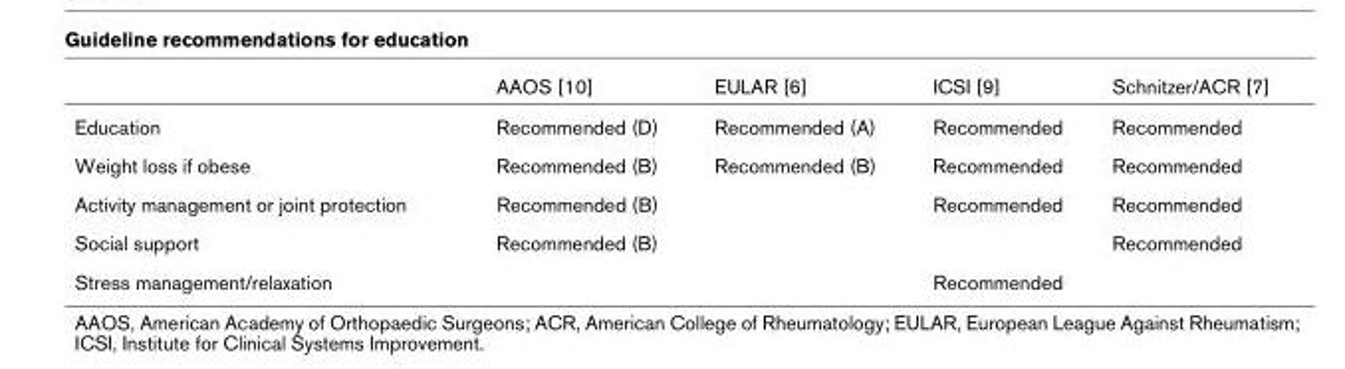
<table><thead><tr><td></td><td>AAOS [10]</td><td>EULAR [6]</td><td>ICSI [9]</td><td>Schnitzer/ACR [7]</td></tr></thead><tbody><tr><td>Education</td><td>Recommended (D)</td><td>Recommended (A)</td><td>Recommended</td><td>Recommended</td></tr><tr><td>Weight loss if obese</td><td>Recommended (B)</td><td>Recommended (B)</td><td>Recommended</td><td>Recommended</td></tr><tr><td>Activity management or joint protection</td><td>Recommended (B)</td><td></td><td>Recommended</td><td>Recommended</td></tr><tr><td>Social support</td><td>Recommended (B)</td><td></td><td></td><td>Recommended</td></tr><tr><td>Stress management/relaxation</td><td></td><td></td><td>Recommended</td><td></td></tr></tbody></table>